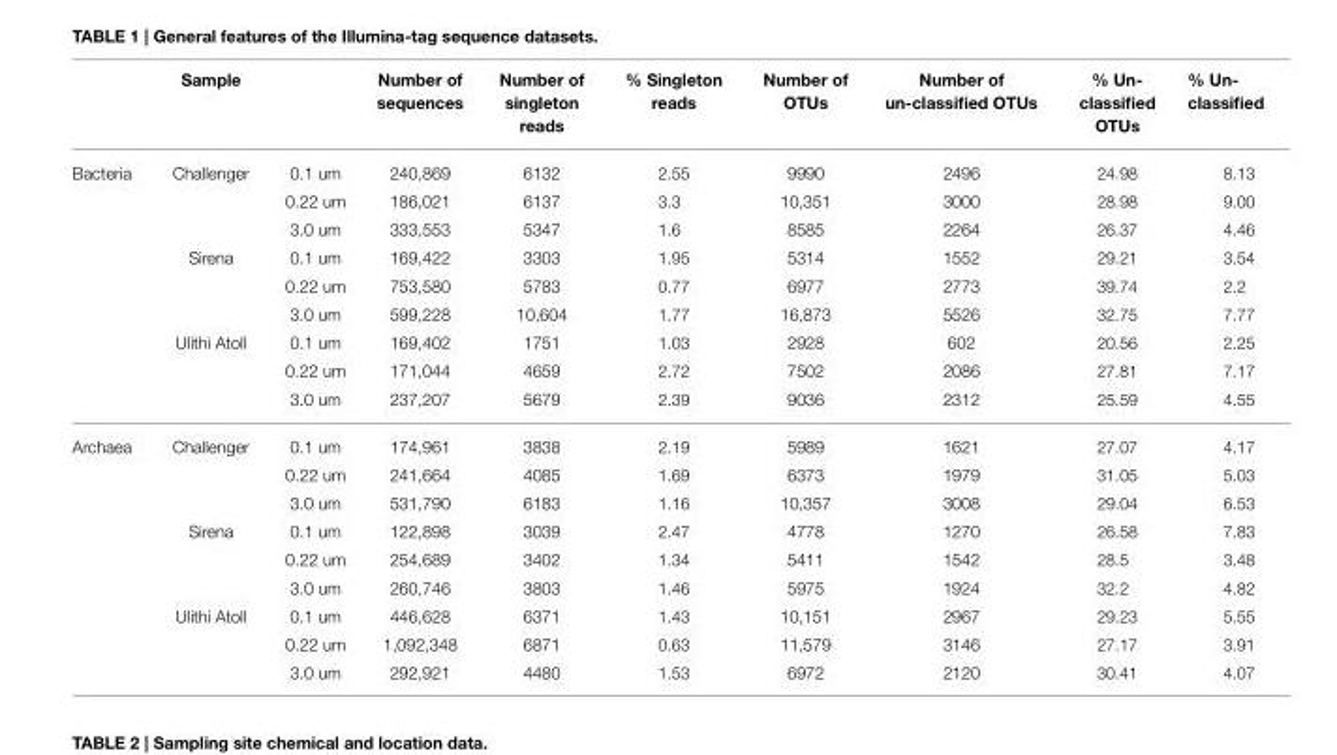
<table><thead><tr><td></td><td>Sample</td><td></td><td>Number of sequences</td><td>Number of singleton reads</td><td>% Singleton reads</td><td>Number of OTUs</td><td>Number of un-classified OTUs</td><td>% Un- classified OTUs</td><td>% Un- classified</td></tr></thead><tbody><tr><td rowspan="9">Bacteria</td><td>Challenger</td><td>0.1 um</td><td>240,869</td><td>6132</td><td>2.55</td><td>9990</td><td>2496</td><td>24.98</td><td>8.13</td></tr><tr><td></td><td>0.22 um</td><td>186,021</td><td>6137</td><td>3.3</td><td>10,351</td><td>3000</td><td>28.98</td><td>9.00</td></tr><tr><td></td><td>3.0 um</td><td>333,553</td><td>5347</td><td>1.6</td><td>8585</td><td>2264</td><td>26.37</td><td>4.46</td></tr><tr><td>Sirena</td><td>0.1 um</td><td>169,422</td><td>3303</td><td>1.95</td><td>5314</td><td>1552</td><td>29.21</td><td>3.54</td></tr><tr><td></td><td>0.22 um</td><td>753,580</td><td>5783</td><td>0.77</td><td>6977</td><td>2773</td><td>39.74</td><td>2.2</td></tr><tr><td></td><td>3.0 um</td><td>599,228</td><td>10,604</td><td>1.77</td><td>16,873</td><td>5526</td><td>32.75</td><td>7.77</td></tr><tr><td>Ulithi Atoll</td><td>0.1 um</td><td>169,402</td><td>1751</td><td>1.03</td><td>2928</td><td>602</td><td>20.56</td><td>2.25</td></tr><tr><td></td><td>0.22 um</td><td>171,044</td><td>4659</td><td>2.72</td><td>7502</td><td>2086</td><td>27.81</td><td>7.17</td></tr><tr><td></td><td>3.0 um</td><td>237,207</td><td>5679</td><td>2.39</td><td>9036</td><td>2312</td><td>25.59</td><td>4.55</td></tr><tr><td rowspan="9">Archaea</td><td>Challenger</td><td>0.1 um</td><td>174,961</td><td>3838</td><td>2.19</td><td>5989</td><td>1621</td><td>27.07</td><td>4.17</td></tr><tr><td></td><td>0.22 um</td><td>241,664</td><td>4085</td><td>1.69</td><td>6373</td><td>1979</td><td>31.05</td><td>5.03</td></tr><tr><td></td><td>3.0 um</td><td>531,790</td><td>6183</td><td>1.16</td><td>10,357</td><td>3008</td><td>29.04</td><td>6.53</td></tr><tr><td>Sirena</td><td>0.1 um</td><td>122,898</td><td>3039</td><td>2.47</td><td>4778</td><td>1270</td><td>26.58</td><td>7.83</td></tr><tr><td></td><td>0.22 um</td><td>254,689</td><td>3402</td><td>1.34</td><td>5411</td><td>1542</td><td>28.5</td><td>3.48</td></tr><tr><td></td><td>3.0 um</td><td>260,746</td><td>3803</td><td>1.46</td><td>5975</td><td>1924</td><td>32.2</td><td>4.82</td></tr><tr><td>Ulithi Atoll</td><td>0.1 um</td><td>446,628</td><td>6371</td><td>1.43</td><td>10,151</td><td>2967</td><td>29.23</td><td>5.55</td></tr><tr><td></td><td>0.22 um</td><td>1,092,348</td><td>6871</td><td>0.63</td><td>11,579</td><td>3146</td><td>27.17</td><td>3.91</td></tr><tr><td></td><td>3.0 um</td><td>292,921</td><td>4480</td><td>1.53</td><td>6972</td><td>2120</td><td>30.41</td><td>4.07</td></tr></tbody></table>